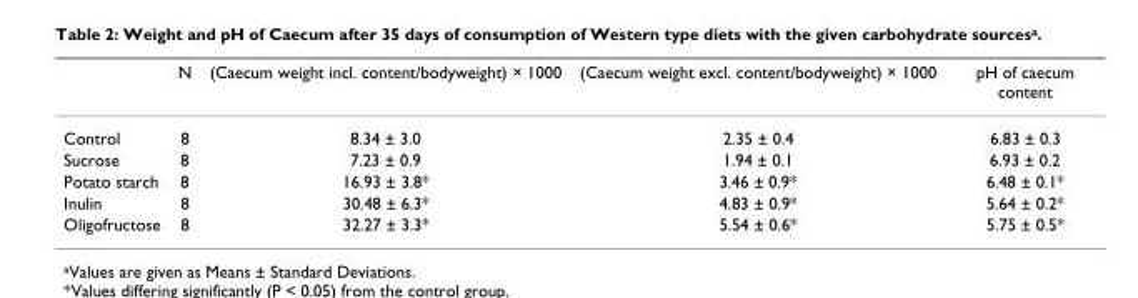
<table><thead><tr><td></td><td>N</td><td>(Caecum weight incl. content/bodyweight) × 1000</td><td>(Caecum weight excl. content/bodyweight) × 1000</td><td>pH of caecum content</td></tr></thead><tbody><tr><td>Control</td><td>8</td><td>8.34 ± 3.0</td><td>2.35 ± 0.4</td><td>6.83 ± 0.3</td></tr><tr><td>Sucrose</td><td>8</td><td>7.23 ± 0.9</td><td>1.94 ± 0.1</td><td>6.93 ± 0.2</td></tr><tr><td>Potato starch</td><td>8</td><td>16.93 ± 3.8*</td><td>3.46 ± 0.9*</td><td>6.48 ± 0.1*</td></tr><tr><td>Inulin</td><td>8</td><td>30.48 ± 6.3*</td><td>4.83 ± 0.9*</td><td>5.64 ± 0.2*</td></tr><tr><td>Oligofructose</td><td>8</td><td>32.27 ± 3.3*</td><td>5.54 ± 0.6*</td><td>5.75 ± 0.5*</td></tr></tbody></table>